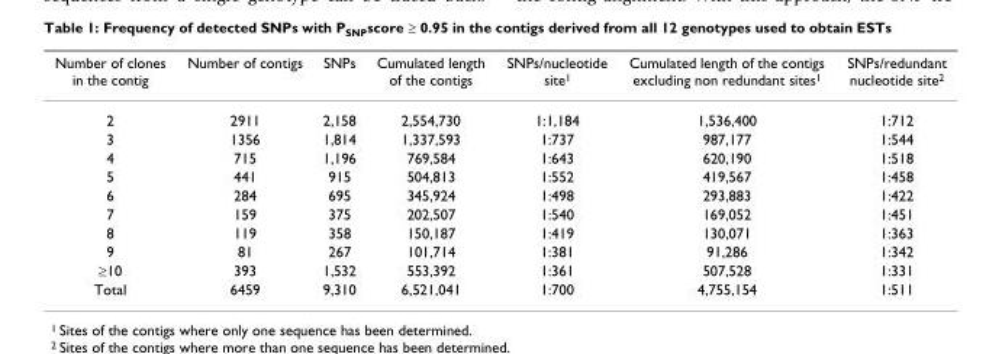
<table><thead><tr><td>Number of clones in the contig</td><td>Number of contigs</td><td>SNPs</td><td>Cumulated length of the contigs</td><td>SNPs/nucleotide site1</td><td>Cumulated length of the contigs excluding non redundant sites1</td><td>SNPs/redundant nucleotide site2</td></tr></thead><tbody><tr><td>2</td><td>2911</td><td>2,158</td><td>2,554,730</td><td>1:1,184</td><td>1,536,400</td><td>1:712</td></tr><tr><td>3</td><td>1356</td><td>1,814</td><td>1,337,593</td><td>1:737</td><td>987,177</td><td>1:544</td></tr><tr><td>4</td><td>715</td><td>1,196</td><td>769,584</td><td>1:643</td><td>620,190</td><td>1:518</td></tr><tr><td>5</td><td>441</td><td>915</td><td>504,813</td><td>1:552</td><td>419,567</td><td>1:458</td></tr><tr><td>6</td><td>284</td><td>695</td><td>345,924</td><td>1:498</td><td>293,883</td><td>1:422</td></tr><tr><td>7</td><td>159</td><td>375</td><td>202,507</td><td>1:540</td><td>169,052</td><td>1:451</td></tr><tr><td>8</td><td>119</td><td>358</td><td>150,187</td><td>1:419</td><td>130,071</td><td>1:363</td></tr><tr><td>9</td><td>81</td><td>267</td><td>101,714</td><td>1:381</td><td>91,286</td><td>1:342</td></tr><tr><td>≥10</td><td>393</td><td>1,532</td><td>553,392</td><td>1:361</td><td>507,528</td><td>1:331</td></tr><tr><td>Total</td><td>6459</td><td>9,310</td><td>6,521,041</td><td>1:700</td><td>4,755,154</td><td>1:511</td></tr></tbody></table>